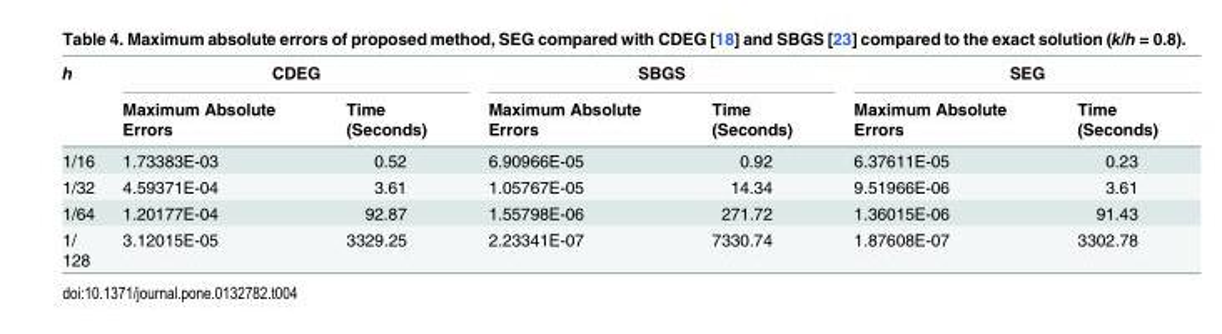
<table><thead><tr><td rowspan="2">h</td><td colspan="2">CDEG</td><td colspan="2">SBGS</td><td colspan="2">SEG</td></tr><tr><td>Maximum Absolute Errors</td><td>Time (Seconds)</td><td>Maximum Absolute Errors</td><td>Time (Seconds)</td><td>Maximum Absolute Errors</td><td>Time (Seconds)</td></tr></thead><tbody><tr><td>1/16</td><td>1.73383E-03</td><td>0.52</td><td>6.90966E-05</td><td>0.92</td><td>6.37611E-05</td><td>0.23</td></tr><tr><td>1/32</td><td>4.59371E-04</td><td>3.61</td><td>1.05767E-05</td><td>14.34</td><td>9.51966E-06</td><td>3.61</td></tr><tr><td>1/64</td><td>1.20177E-04</td><td>92.87</td><td>1.55798E-06</td><td>271.72</td><td>1.36015E-06</td><td>91.43</td></tr><tr><td>1/ 128</td><td>3.12015E-05</td><td>3329.25</td><td>2.23341E-07</td><td>7330.74</td><td>1.87608E-07</td><td>3302.78</td></tr></tbody></table>